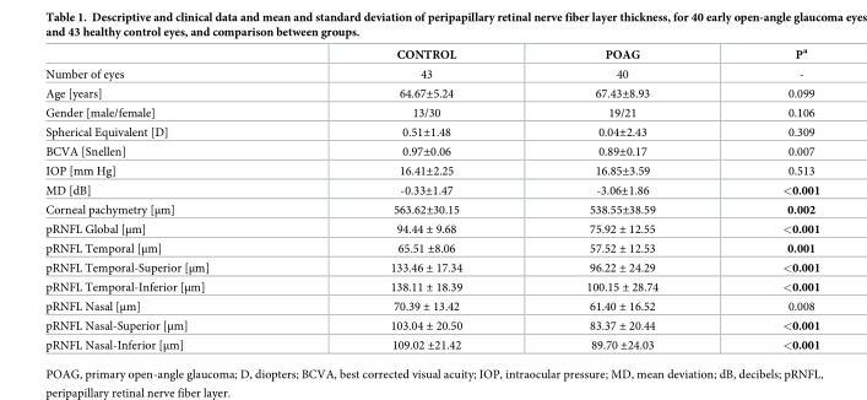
<table><thead><tr><td></td><td>CONTROL</td><td>POAG</td><td>P<sup>a</sup></td></tr></thead><tbody><tr><td>Number of eyes</td><td>43</td><td>40</td><td>-</td></tr><tr><td>Age [years]</td><td>64.67±5.24</td><td>67.43±8.93</td><td>0.099</td></tr><tr><td>Gender [male/female]</td><td>13/30</td><td>19/21</td><td>0.106</td></tr><tr><td>Spherical Equivalent [D]</td><td>0.51±1.48</td><td>0.04±2.43</td><td>0.309</td></tr><tr><td>BCVA [Snellen]</td><td>0.97±0.06</td><td>0.89±0.17</td><td>0.007</td></tr><tr><td>IOP [mm Hg]</td><td>16.41±2.25</td><td>16.85±3.59</td><td>0.513</td></tr><tr><td>MD [dB]</td><td>-0.33±1.47</td><td>-3.06±1.86</td><td>&lt;0.001</td></tr><tr><td>Corneal pachymetry [μm]</td><td>563.62±30.15</td><td>538.55±38.59</td><td>0.002</td></tr><tr><td>pRNFL Global [μm]</td><td>94.44 ± 9.68</td><td>75.92 ± 12.55</td><td>&lt;0.001</td></tr><tr><td>pRNFL Temporal [μm]</td><td>65.51 ±8.06</td><td>57.52 ± 12.53</td><td>0.001</td></tr><tr><td>pRNFL Temporal-Superior [μm]</td><td>133.46 ± 17.34</td><td>96.22 ± 24.29</td><td>&lt;0.001</td></tr><tr><td>pRNFL Temporal-Inferior [μm]</td><td>138.11 ± 18.39</td><td>100.15 ± 28.74</td><td>&lt;0.001</td></tr><tr><td>pRNFL Nasal [μm]</td><td>70.39 ± 13.42</td><td>61.40 ± 16.52</td><td>0.008</td></tr><tr><td>pRNFL Nasal-Superior [μm]</td><td>103.04 ± 20.50</td><td>83.37 ± 20.44</td><td>&lt;0.001</td></tr><tr><td>pRNFL Nasal-Inferior [μm]</td><td>109.02 ±21.42</td><td>89.70 ±24.03</td><td>&lt;0.001</td></tr></tbody></table>